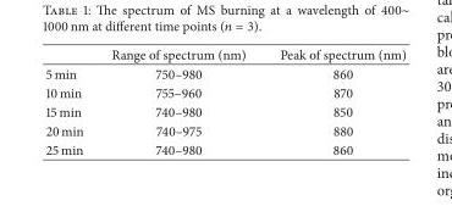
<table><thead><tr><td></td><td>Range of spectrum (nm)</td><td>Peak of spectrum (nm)</td></tr></thead><tbody><tr><td>5 min</td><td>750–980</td><td>860</td></tr><tr><td>10 min</td><td>755–960</td><td>870</td></tr><tr><td>15 min</td><td>740–980</td><td>850</td></tr><tr><td>20 min</td><td>740–975</td><td>880</td></tr><tr><td>25 min</td><td>740–980</td><td>860</td></tr></tbody></table>